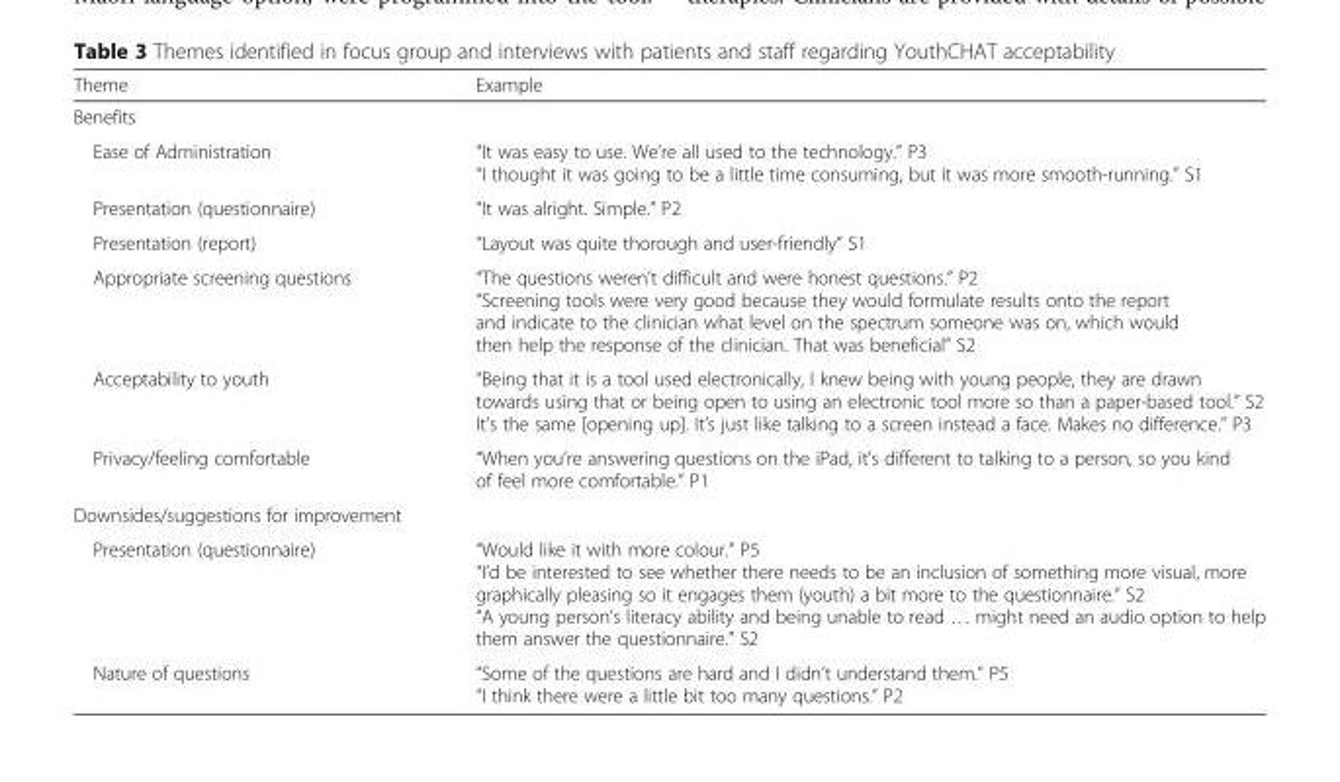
<table><thead><tr><td>Theme</td><td>Example</td></tr></thead><tbody><tr><td colspan="2">Benefits</td></tr><tr><td>Ease of Administration</td><td>“It was easy to use. We’re all used to the technology.” P3 “I thought it was going to be a little time consuming, but it was more smooth-running.” S1</td></tr><tr><td>Presentation (questionnaire)</td><td>“It was alright. Simple.” P2</td></tr><tr><td>Presentation (report)</td><td>“Layout was quite thorough and user-friendly” S1</td></tr><tr><td>Appropriate screening questions</td><td>“The questions weren’t difficult and were honest questions.” P2 “Screening tools were very good because they would formulate results onto the report and indicate to the clinician what level on the spectrum someone was on, which would then help the response of the clinician. That was beneficial” S2</td></tr><tr><td>Acceptability to youth</td><td>“Being that it is a tool used electronically, I knew being with young people, they are drawn towards using that or being open to using an electronic tool more so than a paper-based tool.” S2 It’s the same [opening up]. It’s just like talking to a screen instead a face. Makes no difference.” P3</td></tr><tr><td>Privacy/feeling comfortable</td><td>“When you’re answering questions on the iPad, it’s different to talking to a person, so you kind of feel more comfortable.” P1</td></tr><tr><td colspan="2">Downsides/suggestions for improvement</td></tr><tr><td>Presentation (questionnaire)</td><td>“Would like it with more colour.” P5 “I’d be interested to see whether there needs to be an inclusion of something more visual, more graphically pleasing so it engages them (youth) a bit more to the questionnaire.” S2 “A young person’s literacy ability and being unable to read … might need an audio option to help them answer the questionnaire.” S2</td></tr><tr><td>Nature of questions</td><td>“Some of the questions are hard and I didn’t understand them.” P5 “I think there were a little bit too many questions.” P2</td></tr></tbody></table>